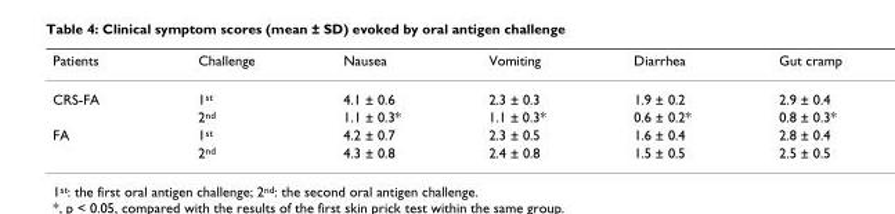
<table><thead><tr><td>Patients</td><td>Challenge</td><td>Nausea</td><td>Vomiting</td><td>Diarrhea</td><td>Gut cramp</td></tr></thead><tbody><tr><td rowspan="2">CRS-FA</td><td>1st</td><td>4.1 ± 0.6</td><td>2.3 ± 0.3</td><td>1.9 ± 0.2</td><td>2.9 ± 0.4</td></tr><tr><td>2nd</td><td>1.1 ± 0.3*</td><td>1.1 ± 0.3*</td><td>0.6 ± 0.2*</td><td>0.8 ± 0.3*</td></tr><tr><td rowspan="2">FA</td><td>1st</td><td>4.2 ± 0.7</td><td>2.3 ± 0.5</td><td>1.6 ± 0.4</td><td>2.8 ± 0.4</td></tr><tr><td>2nd</td><td>4.3 ± 0.8</td><td>2.4 ± 0.8</td><td>1.5 ± 0.5</td><td>2.5 ± 0.5</td></tr></tbody></table>